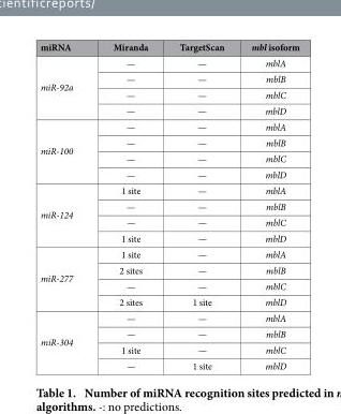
<table><thead><tr><td>miRNA</td><td>Miranda</td><td>TargetScan</td><td>mbl isoform</td></tr></thead><tbody><tr><td rowspan="4">miR-92a</td><td>—</td><td>—</td><td>mblA</td></tr><tr><td>—</td><td>—</td><td>mblB</td></tr><tr><td>—</td><td>—</td><td>mblC</td></tr><tr><td>—</td><td>—</td><td>mblD</td></tr><tr><td rowspan="4">miR-100</td><td>—</td><td>—</td><td>mblA</td></tr><tr><td>—</td><td>—</td><td>mblB</td></tr><tr><td>—</td><td>—</td><td>mblC</td></tr><tr><td>—</td><td>—</td><td>mblD</td></tr><tr><td rowspan="4">miR-124</td><td>1 site</td><td>—</td><td>mblA</td></tr><tr><td>—</td><td>—</td><td>mblB</td></tr><tr><td>—</td><td>—</td><td>mblC</td></tr><tr><td>1 site</td><td>—</td><td>mblD</td></tr><tr><td rowspan="4">miR-277</td><td>1 site</td><td>—</td><td>mblA</td></tr><tr><td>2 sites</td><td>—</td><td>mblB</td></tr><tr><td>—</td><td>—</td><td>mblC</td></tr><tr><td>2 sites</td><td>1 site</td><td>mblD</td></tr><tr><td rowspan="4">miR-304</td><td>—</td><td>—</td><td>mblA</td></tr><tr><td>—</td><td>—</td><td>mblB</td></tr><tr><td>1 site</td><td>—</td><td>mblC</td></tr><tr><td>—</td><td>1 site</td><td>mblD</td></tr></tbody></table>